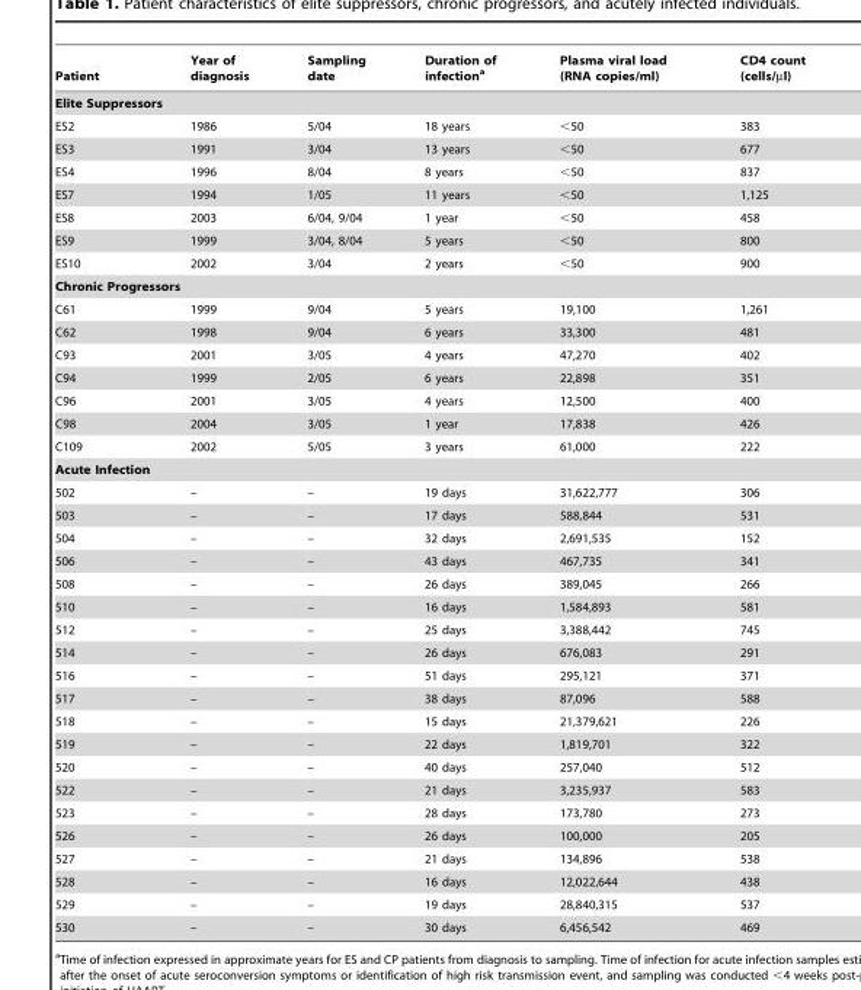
<table><thead><tr><td>Patient</td><td>Year of diagnosis</td><td>Sampling date</td><td>Duration of infection<sup>a</sup></td><td>Plasma viral load (RNA copies/ml)</td><td>CD4 count (cells/µl)</td></tr></thead><tbody><tr><td colspan="6">Elite Suppressors</td></tr><tr><td>ES2</td><td>1986</td><td>5/04</td><td>18 years</td><td>&lt;50</td><td>383</td></tr><tr><td>ES3</td><td>1991</td><td>3/04</td><td>13 years</td><td>&lt;50</td><td>677</td></tr><tr><td>ES4</td><td>1996</td><td>8/04</td><td>8 years</td><td>&lt;50</td><td>837</td></tr><tr><td>ES7</td><td>1994</td><td>1/05</td><td>11 years</td><td>&lt;50</td><td>1,125</td></tr><tr><td>ES8</td><td>2003</td><td>6/04, 9/04</td><td>1 year</td><td>&lt;50</td><td>458</td></tr><tr><td>ES9</td><td>1999</td><td>3/04, 8/04</td><td>5 years</td><td>&lt;50</td><td>800</td></tr><tr><td>ES10</td><td>2002</td><td>3/04</td><td>2 years</td><td>&lt;50</td><td>900</td></tr><tr><td colspan="6">Chronic Progressors</td></tr><tr><td>C61</td><td>1999</td><td>9/04</td><td>5 years</td><td>19,100</td><td>1,261</td></tr><tr><td>C62</td><td>1998</td><td>9/04</td><td>6 years</td><td>33,300</td><td>481</td></tr><tr><td>C93</td><td>2001</td><td>3/05</td><td>4 years</td><td>47,270</td><td>402</td></tr><tr><td>C94</td><td>1999</td><td>2/05</td><td>6 years</td><td>22,898</td><td>351</td></tr><tr><td>C96</td><td>2001</td><td>3/05</td><td>4 years</td><td>12,500</td><td>400</td></tr><tr><td>C98</td><td>2004</td><td>3/05</td><td>1 year</td><td>17,838</td><td>426</td></tr><tr><td>C109</td><td>2002</td><td>5/05</td><td>3 years</td><td>61,000</td><td>222</td></tr><tr><td colspan="6">Acute Infection</td></tr><tr><td>502</td><td>–</td><td>–</td><td>19 days</td><td>31,622,777</td><td>306</td></tr><tr><td>503</td><td>–</td><td>–</td><td>17 days</td><td>588,844</td><td>531</td></tr><tr><td>504</td><td>–</td><td>–</td><td>32 days</td><td>2,691,535</td><td>152</td></tr><tr><td>506</td><td>–</td><td>–</td><td>43 days</td><td>467,735</td><td>341</td></tr><tr><td>508</td><td>–</td><td>–</td><td>26 days</td><td>389,045</td><td>266</td></tr><tr><td>510</td><td>–</td><td>–</td><td>16 days</td><td>1,584,893</td><td>581</td></tr><tr><td>512</td><td>–</td><td>–</td><td>25 days</td><td>3,388,442</td><td>745</td></tr><tr><td>514</td><td>–</td><td>–</td><td>26 days</td><td>676,083</td><td>291</td></tr><tr><td>516</td><td>–</td><td>–</td><td>51 days</td><td>295,121</td><td>371</td></tr><tr><td>517</td><td>–</td><td>–</td><td>38 days</td><td>87,096</td><td>588</td></tr><tr><td>518</td><td>–</td><td>–</td><td>15 days</td><td>21,379,621</td><td>226</td></tr><tr><td>519</td><td>–</td><td>–</td><td>22 days</td><td>1,819,701</td><td>322</td></tr><tr><td>520</td><td>–</td><td>–</td><td>40 days</td><td>257,040</td><td>512</td></tr><tr><td>522</td><td>–</td><td>–</td><td>21 days</td><td>3,235,937</td><td>583</td></tr><tr><td>523</td><td>–</td><td>–</td><td>28 days</td><td>173,780</td><td>273</td></tr><tr><td>526</td><td>–</td><td>–</td><td>26 days</td><td>100,000</td><td>205</td></tr><tr><td>527</td><td>–</td><td>–</td><td>21 days</td><td>134,896</td><td>538</td></tr><tr><td>528</td><td>–</td><td>–</td><td>16 days</td><td>12,022,644</td><td>438</td></tr><tr><td>529</td><td>–</td><td>–</td><td>19 days</td><td>28,840,315</td><td>537</td></tr><tr><td>530</td><td>–</td><td>–</td><td>30 days</td><td>6,456,542</td><td>469</td></tr></tbody></table>